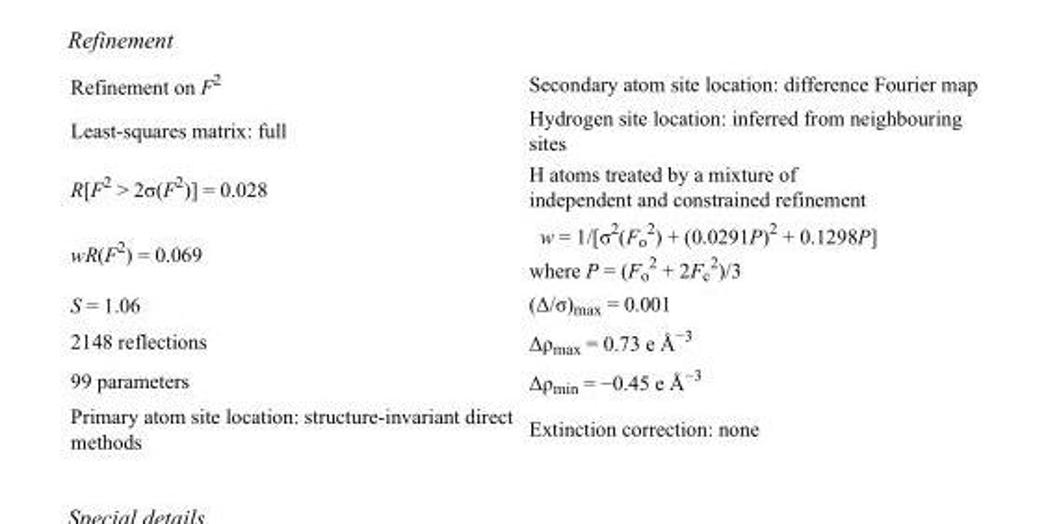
<table><tbody><tr><td>Refinement on F<sup>2</sup></td><td>Secondary atom site location: difference Fourier map</td></tr><tr><td>Least-squares matrix: full</td><td>Hydrogen site location: inferred from neighbouring sites</td></tr><tr><td>R[F<sup>2</sup> &gt; 2σ(F<sup>2</sup>)] = 0.028</td><td>H atoms treated by a mixture of independent and constrained refinement</td></tr><tr><td>wR(F<sup>2</sup>) = 0.069</td><td>w = 1/[σ<sup>2</sup>(F<sub>o</sub> <sup>2</sup>) + (0.0291P)<sup>2</sup> + 0.1298P] where P = (F<sub>o</sub> <sup>2</sup> + 2F<sub>c</sub> <sup>2</sup>)/3</td></tr><tr><td>S = 1.06</td><td>(Δ/σ)<sub>max</sub> = 0.001</td></tr><tr><td>2148 reflections</td><td>Δρ<sub>max</sub> = 0.73 e Å<sup>−3</sup></td></tr><tr><td>99 parameters</td><td>Δρ<sub>min</sub> = −0.45 e Å<sup>−3</sup></td></tr><tr><td>Primary atom site location: structure-invariant direct methods</td><td>Extinction correction: none</td></tr></tbody></table>